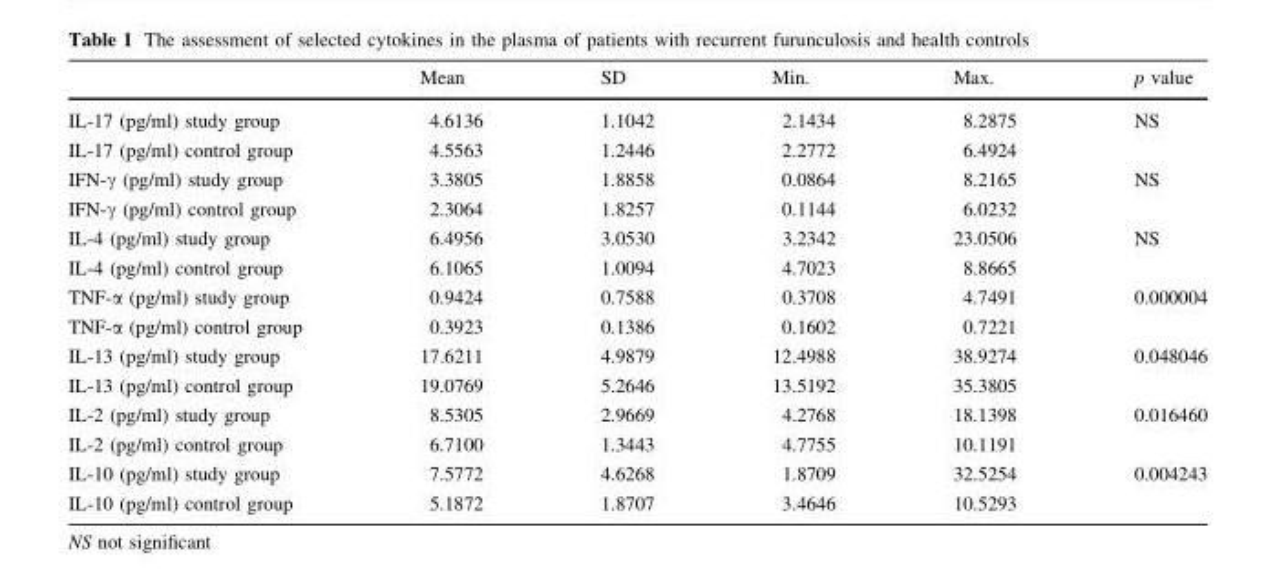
<table><thead><tr><td></td><td>Mean</td><td>SD</td><td>Min.</td><td>Max.</td><td>p value</td></tr></thead><tbody><tr><td>IL-17 (pg/ml) study group</td><td>4.6136</td><td>1.1042</td><td>2.1434</td><td>8.2875</td><td rowspan="2">NS</td></tr><tr><td>IL-17 (pg/ml) control group</td><td>4.5563</td><td>1.2446</td><td>2.2772</td><td>6.4924</td></tr><tr><td>IFN-γ (pg/ml) study group</td><td>3.3805</td><td>1.8858</td><td>0.0864</td><td>8.2165</td><td rowspan="2">NS</td></tr><tr><td>IFN-γ (pg/ml) control group</td><td>2.3064</td><td>1.8257</td><td>0.1144</td><td>6.0232</td></tr><tr><td>IL-4 (pg/ml) study group</td><td>6.4956</td><td>3.0530</td><td>3.2342</td><td>23.0506</td><td rowspan="2">NS</td></tr><tr><td>IL-4 (pg/ml) control group</td><td>6.1065</td><td>1.0094</td><td>4.7023</td><td>8.8665</td></tr><tr><td>TNF-α (pg/ml) study group</td><td>0.9424</td><td>0.7588</td><td>0.3708</td><td>4.7491</td><td rowspan="2">0.000004</td></tr><tr><td>TNF-α (pg/ml) control group</td><td>0.3923</td><td>0.1386</td><td>0.1602</td><td>0.7221</td></tr><tr><td>IL-13 (pg/ml) study group</td><td>17.6211</td><td>4.9879</td><td>12.4988</td><td>38.9274</td><td rowspan="2">0.048046</td></tr><tr><td>IL-13 (pg/ml) control group</td><td>19.0769</td><td>5.2646</td><td>13.5192</td><td>35.3805</td></tr><tr><td>IL-2 (pg/ml) study group</td><td>8.5305</td><td>2.9669</td><td>4.2768</td><td>18.1398</td><td rowspan="2">0.016460</td></tr><tr><td>IL-2 (pg/ml) control group</td><td>6.7100</td><td>1.3443</td><td>4.7755</td><td>10.1191</td></tr><tr><td>IL-10 (pg/ml) study group</td><td>7.5772</td><td>4.6268</td><td>1.8709</td><td>32.5254</td><td rowspan="2">0.004243</td></tr><tr><td>IL-10 (pg/ml) control group</td><td>5.1872</td><td>1.8707</td><td>3.4646</td><td>10.5293</td></tr></tbody></table>